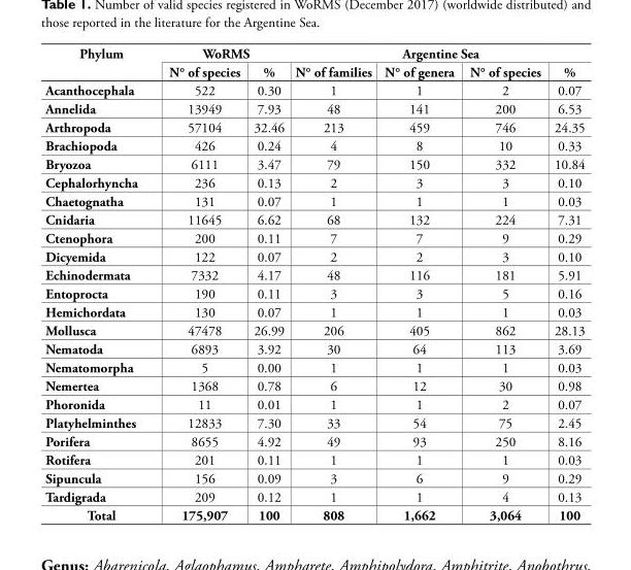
<table><tbody><tr><td rowspan="2">Phylum</td><td colspan="2">WoRMS</td><td colspan="4">Argentine Sea</td></tr><tr><td>N° of species</td><td>%</td><td>N° of families</td><td>N° of genera</td><td>N° of species</td><td>%</td></tr><tr><td>Acanthocephala</td><td>522</td><td>0.30</td><td>1</td><td>1</td><td>2</td><td>0.07</td></tr><tr><td>Annelida</td><td>13949</td><td>7.93</td><td>48</td><td>141</td><td>200</td><td>6.53</td></tr><tr><td>Arthropoda</td><td>57104</td><td>32.46</td><td>213</td><td>459</td><td>746</td><td>24.35</td></tr><tr><td>Brachiopoda</td><td>426</td><td>0.24</td><td>4</td><td>8</td><td>10</td><td>0.33</td></tr><tr><td>Bryozoa</td><td>6111</td><td>3.47</td><td>79</td><td>150</td><td>332</td><td>10.84</td></tr><tr><td>Cephalorhyncha</td><td>236</td><td>0.13</td><td>2</td><td>3</td><td>3</td><td>0.10</td></tr><tr><td>Chaetognatha</td><td>131</td><td>0.07</td><td>1</td><td>1</td><td>1</td><td>0.03</td></tr><tr><td>Cnidaria</td><td>11645</td><td>6.62</td><td>68</td><td>132</td><td>224</td><td>7.31</td></tr><tr><td>Ctenophora</td><td>200</td><td>0.11</td><td>7</td><td>7</td><td>9</td><td>0.29</td></tr><tr><td>Dicyemida</td><td>122</td><td>0.07</td><td>2</td><td>2</td><td>3</td><td>0.10</td></tr><tr><td>Echinodermata</td><td>7332</td><td>4.17</td><td>48</td><td>116</td><td>181</td><td>5.91</td></tr><tr><td>Entoprocta</td><td>190</td><td>0.11</td><td>3</td><td>3</td><td>5</td><td>0.16</td></tr><tr><td>Hemichordata</td><td>130</td><td>0.07</td><td>1</td><td>1</td><td>1</td><td>0.03</td></tr><tr><td>Mollusca</td><td>47478</td><td>26.99</td><td>206</td><td>405</td><td>862</td><td>28.13</td></tr><tr><td>Nematoda</td><td>6893</td><td>3.92</td><td>30</td><td>64</td><td>113</td><td>3.69</td></tr><tr><td>Nematomorpha</td><td>5</td><td>0.00</td><td>1</td><td>1</td><td>1</td><td>0.03</td></tr><tr><td>Nemertea</td><td>1368</td><td>0.78</td><td>6</td><td>12</td><td>30</td><td>0.98</td></tr><tr><td>Phoronida</td><td>11</td><td>0.01</td><td>1</td><td>1</td><td>2</td><td>0.07</td></tr><tr><td>Platyhelminthes</td><td>12833</td><td>7.30</td><td>33</td><td>54</td><td>75</td><td>2.45</td></tr><tr><td>Porifera</td><td>8655</td><td>4.92</td><td>49</td><td>93</td><td>250</td><td>8.16</td></tr><tr><td>Rotifera</td><td>201</td><td>0.11</td><td>1</td><td>1</td><td>1</td><td>0.03</td></tr><tr><td>Sipuncula</td><td>156</td><td>0.09</td><td>3</td><td>6</td><td>9</td><td>0.29</td></tr><tr><td>Tardigrada</td><td>209</td><td>0.12</td><td>1</td><td>1</td><td>4</td><td>0.13</td></tr><tr><td>Total</td><td>175,907</td><td>100</td><td>808</td><td>1,662</td><td>3,064</td><td>100</td></tr></tbody></table>